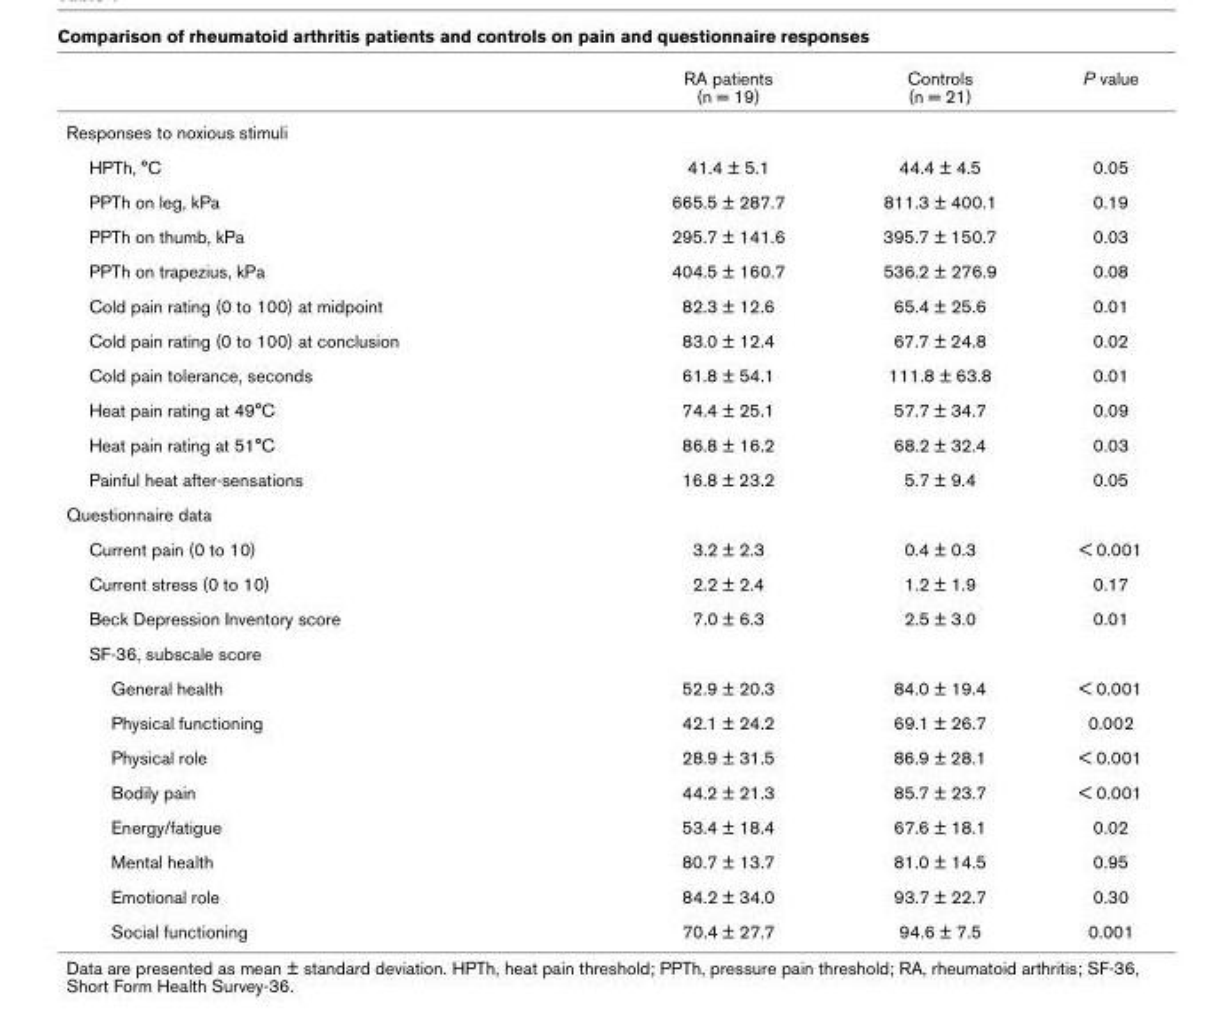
<table><thead><tr><td></td><td>RA patients (n = 19)</td><td>Controls (n = 21)</td><td>P value</td></tr></thead><tbody><tr><td colspan="4">Responses to noxious stimuli</td></tr><tr><td>HPTh, °C</td><td>41.4 ± 5.1</td><td>44.4 ± 4.5</td><td>0.05</td></tr><tr><td>PPTh on leg, kPa</td><td>665.5 ± 287.7</td><td>811.3 ± 400.1</td><td>0.19</td></tr><tr><td>PPTh on thumb, kPa</td><td>295.7 ± 141.6</td><td>395.7 ± 150.7</td><td>0.03</td></tr><tr><td>PPTh on trapezius, kPa</td><td>404.5 ± 160.7</td><td>536.2 ± 276.9</td><td>0.08</td></tr><tr><td>Cold pain rating (0 to 100) at midpoint</td><td>82.3 ± 12.6</td><td>65.4 ± 25.6</td><td>0.01</td></tr><tr><td>Cold pain rating (0 to 100) at conclusion</td><td>83.0 ± 12.4</td><td>67.7 ± 24.8</td><td>0.02</td></tr><tr><td>Cold pain tolerance, seconds</td><td>61.8 ± 54.1</td><td>111.8 ± 63.8</td><td>0.01</td></tr><tr><td>Heat pain rating at 49°C</td><td>74.4 ± 25.1</td><td>57.7 ± 34.7</td><td>0.09</td></tr><tr><td>Heat pain rating at 51°C</td><td>86.8 ± 16.2</td><td>68.2 ± 32.4</td><td>0.03</td></tr><tr><td>Painful heat after-sensations</td><td>16.8 ± 23.2</td><td>5.7 ± 9.4</td><td>0.05</td></tr><tr><td colspan="4">Questionnaire data</td></tr><tr><td>Current pain (0 to 10)</td><td>3.2 ± 2.3</td><td>0.4 ± 0.3</td><td>&lt; 0.001</td></tr><tr><td>Current stress (0 to 10)</td><td>2.2 ± 2.4</td><td>1.2 ± 1.9</td><td>0.17</td></tr><tr><td>Beck Depression Inventory score</td><td>7.0 ± 6.3</td><td>2.5 ± 3.0</td><td>0.01</td></tr><tr><td colspan="4">SF-36, subscale score</td></tr><tr><td>General health</td><td>52.9 ± 20.3</td><td>84.0 ± 19.4</td><td>&lt; 0.001</td></tr><tr><td>Physical functioning</td><td>42.1 ± 24.2</td><td>69.1 ± 26.7</td><td>0.002</td></tr><tr><td>Physical role</td><td>28.9 ± 31.5</td><td>86.9 ± 28.1</td><td>&lt; 0.001</td></tr><tr><td>Bodily pain</td><td>44.2 ± 21.3</td><td>85.7 ± 23.7</td><td>&lt; 0.001</td></tr><tr><td>Energy/fatigue</td><td>53.4 ± 18.4</td><td>67.6 ± 18.1</td><td>0.02</td></tr><tr><td>Mental health</td><td>80.7 ± 13.7</td><td>81.0 ± 14.5</td><td>0.95</td></tr><tr><td>Emotional role</td><td>84.2 ± 34.0</td><td>93.7 ± 22.7</td><td>0.30</td></tr><tr><td>Social functioning</td><td>70.4 ± 27.7</td><td>94.6 ± 7.5</td><td>0.001</td></tr></tbody></table>